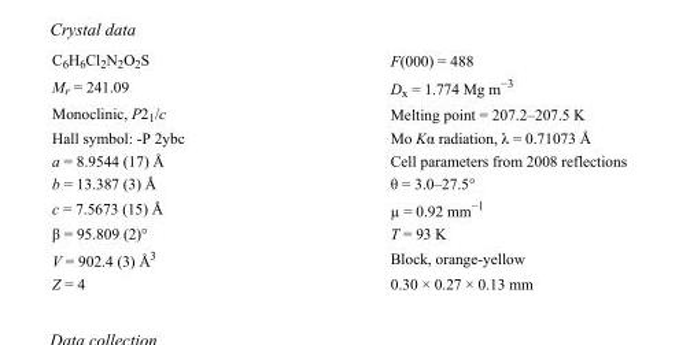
<table><tbody><tr><td>C<sub>6</sub>H<sub>6</sub>Cl<sub>2</sub>N<sub>2</sub>O<sub>2</sub>S</td><td>F(000) = 488</td></tr><tr><td>M<sub>r</sub> = 241.09</td><td>D<sub>x</sub> = 1.774 Mg m<sup>−3</sup></td></tr><tr><td>Monoclinic, P2<sub>1</sub>/c</td><td>Melting point = 207.2–207.5 K</td></tr><tr><td>Hall symbol: -P 2ybc</td><td>Mo Kα radiation, λ = 0.71073 Å</td></tr><tr><td>a = 8.9544 (17) Å</td><td>Cell parameters from 2008 reflections</td></tr><tr><td>b = 13.387 (3) Å</td><td>θ = 3.0–27.5°</td></tr><tr><td>c = 7.5673 (15) Å</td><td>µ = 0.92 mm<sup>−1</sup></td></tr><tr><td>β = 95.809 (2)°</td><td>T = 93 K</td></tr><tr><td>V = 902.4 (3) Å<sup>3</sup></td><td>Block, orange-yellow</td></tr><tr><td>Z = 4</td><td>0.30 × 0.27 × 0.13 mm</td></tr></tbody></table>